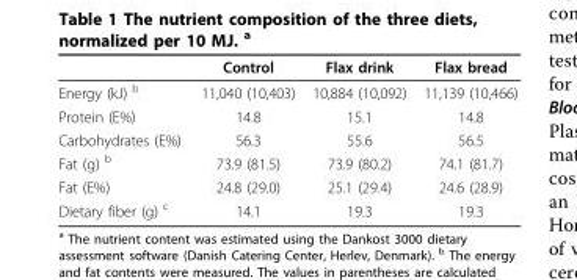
<table><thead><tr><td></td><td>Control</td><td>Flax drink</td><td>Flax bread</td></tr></thead><tbody><tr><td>Energy (kJ) <sup>b</sup></td><td>11,040 (10,403)</td><td>10,884 (10,092)</td><td>11,139 (10,466)</td></tr><tr><td>Protein (E%)</td><td>14.8</td><td>15.1</td><td>14.8</td></tr><tr><td>Carbohydrates (E%)</td><td>56.3</td><td>55.6</td><td>56.5</td></tr><tr><td>Fat (g) <sup>b</sup></td><td>73.9 (81.5)</td><td>73.9 (80.2)</td><td>74.1 (81.7)</td></tr><tr><td>Fat (E%)</td><td>24.8 (29.0)</td><td>25.1 (29.4)</td><td>24.6 (28.9)</td></tr><tr><td>Dietary fiber (g) <sup>c</sup></td><td>14.1</td><td>19.3</td><td>19.3</td></tr></tbody></table>